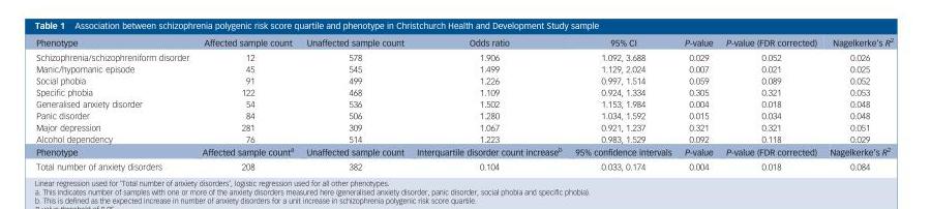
<table><thead><tr><td>Phenotype</td><td>Affected sample count</td><td>Unaffected sample count</td><td>Odds ratio</td><td>95% CI</td><td>P-value</td><td>P-value (FDR corrected)</td><td>Nagelkerke’s R<sup>2</sup></td></tr></thead><tbody><tr><td>Schizophrenia/schizophreniform disorder</td><td>12</td><td>578</td><td>1.906</td><td>1.092, 3.688</td><td>0.029</td><td>0.052</td><td>0.026</td></tr><tr><td>Manic/hypomanic episode</td><td>45</td><td>545</td><td>1.499</td><td>1.129, 2.024</td><td>0.007</td><td>0.021</td><td>0.025</td></tr><tr><td>Social phobia</td><td>91</td><td>499</td><td>1.226</td><td>0.997, 1.514</td><td>0.059</td><td>0.089</td><td>0.052</td></tr><tr><td>Specific phobia</td><td>122</td><td>468</td><td>1.109</td><td>0.924, 1.334</td><td>0.305</td><td>0.321</td><td>0.053</td></tr><tr><td>Generalised anxiety disorder</td><td>54</td><td>536</td><td>1.502</td><td>1.153, 1.984</td><td>0.004</td><td>0.018</td><td>0.048</td></tr><tr><td>Panic disorder</td><td>84</td><td>506</td><td>1.280</td><td>1.034, 1.592</td><td>0.015</td><td>0.034</td><td>0.048</td></tr><tr><td>Major depression</td><td>281</td><td>309</td><td>1.067</td><td>0.921, 1.237</td><td>0.321</td><td>0.321</td><td>0.051</td></tr><tr><td>Alcohol dependency</td><td>76</td><td>514</td><td>1.223</td><td>0.983, 1.529</td><td>0.092</td><td>0.118</td><td>0.029</td></tr><tr><td>Phenotype</td><td>Affected sample count<sup>a</sup></td><td>Unaffected sample count</td><td>Interquartile disorder count increase<sup>b</sup></td><td>95% confidence intervals</td><td>P-value</td><td>P-value (FDR corrected)</td><td>Nagelkerke’s R<sup>2</sup></td></tr><tr><td>Total number of anxiety disorders</td><td>208</td><td>382</td><td>0.104</td><td>0.033, 0.174</td><td>0.004</td><td>0.018</td><td>0.084</td></tr></tbody></table>